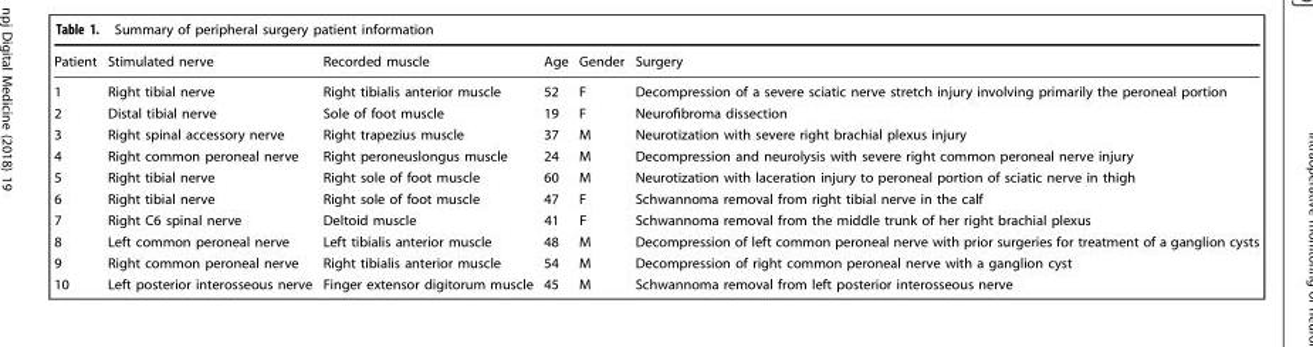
<table><thead><tr><td>Patient</td><td>Stimulated nerve</td><td>Recorded muscle</td><td>Age</td><td>Gender</td><td>Surgery</td></tr></thead><tbody><tr><td>1</td><td>Right tibial nerve</td><td>Right tibialis anterior muscle</td><td>52</td><td>F</td><td>Decompression of a severe sciatic nerve stretch injury involving primarily the peroneal portion</td></tr><tr><td>2</td><td>Distal tibial nerve</td><td>Sole of foot muscle</td><td>19</td><td>F</td><td>Neurofibroma dissection</td></tr><tr><td>3</td><td>Right spinal accessory nerve</td><td>Right trapezius muscle</td><td>37</td><td>M</td><td>Neurotization with severe right brachial plexus injury</td></tr><tr><td>4</td><td>Right common peroneal nerve</td><td>Right peroneuslongus muscle</td><td>24</td><td>M</td><td>Decompression and neurolysis with severe right common peroneal nerve injury</td></tr><tr><td>5</td><td>Right tibial nerve</td><td>Right sole of foot muscle</td><td>60</td><td>M</td><td>Neurotization with laceration injury to peroneal portion of sciatic nerve in thigh</td></tr><tr><td>6</td><td>Right tibial nerve</td><td>Right sole of foot muscle</td><td>47</td><td>F</td><td>Schwannoma removal from right tibial nerve in the calf</td></tr><tr><td>7</td><td>Right C6 spinal nerve</td><td>Deltoid muscle</td><td>41</td><td>F</td><td>Schwannoma removal from the middle trunk of her right brachial plexus</td></tr><tr><td>8</td><td>Left common peroneal nerve</td><td>Left tibialis anterior muscle</td><td>48</td><td>M</td><td>Decompression of left common peroneal nerve with prior surgeries for treatment of a ganglion cysts</td></tr><tr><td>9</td><td>Right common peroneal nerve</td><td>Right tibialis anterior muscle</td><td>54</td><td>M</td><td>Decompression of right common peroneal nerve with a ganglion cyst</td></tr><tr><td>10</td><td>Left posterior interosseous nerve</td><td>Finger extensor digitorum muscle</td><td>45</td><td>M</td><td>Schwannoma removal from left posterior interosseous nerve</td></tr></tbody></table>